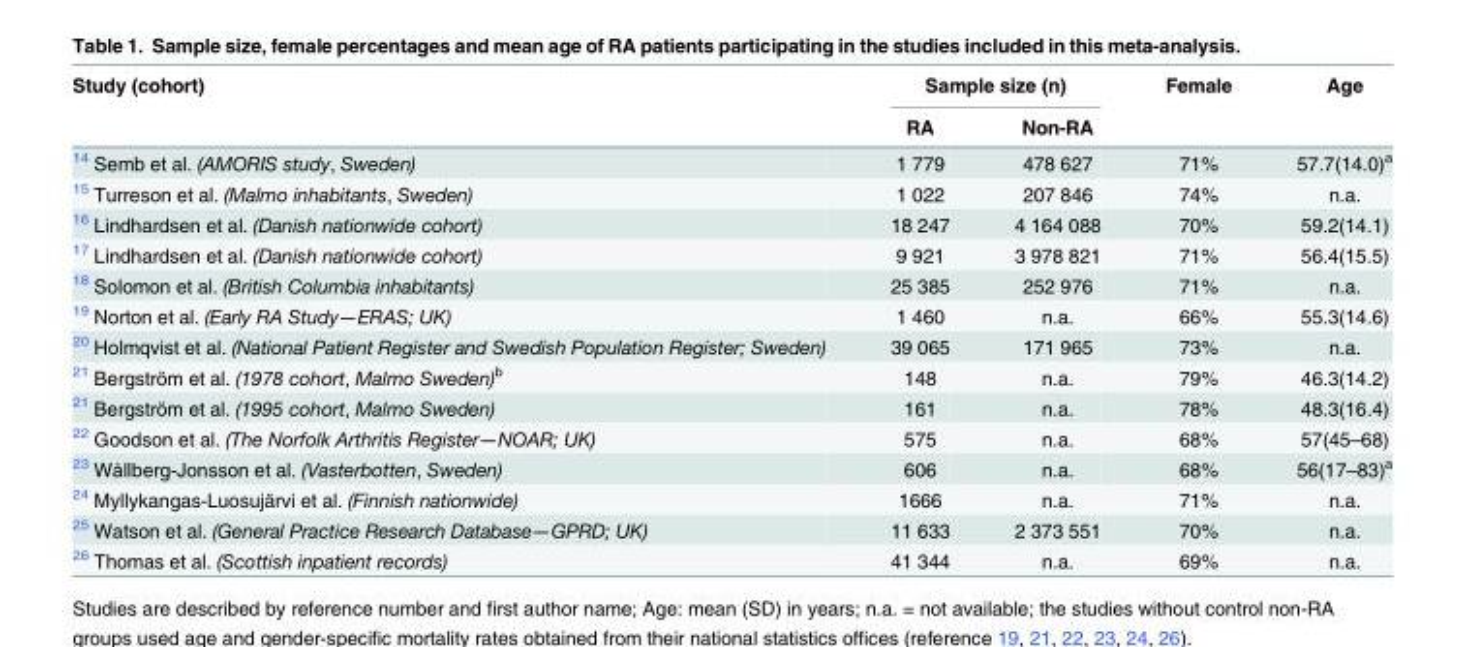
<table><thead><tr><td rowspan="2">Study (cohort)</td><td colspan="2">Sample size (n)</td><td rowspan="2">Female</td><td rowspan="2">Age</td></tr><tr><td>RA</td><td>Non-RA</td></tr></thead><tbody><tr><td><sup>14</sup> Semb et al. (AMORIS study, Sweden)</td><td>1 779</td><td>478 627</td><td>71%</td><td>57.7(14.0)<sup>a</sup></td></tr><tr><td><sup>15</sup> Turreson et al. (Malmo inhabitants, Sweden)</td><td>1 022</td><td>207 846</td><td>74%</td><td>n.a.</td></tr><tr><td><sup>16</sup> Lindhardsen et al. (Danish nationwide cohort)</td><td>18 247</td><td>4 164 088</td><td>70%</td><td>59.2(14.1)</td></tr><tr><td><sup>17</sup> Lindhardsen et al. (Danish nationwide cohort)</td><td>9 921</td><td>3 978 821</td><td>71%</td><td>56.4(15.5)</td></tr><tr><td><sup>18</sup> Solomon et al. (British Columbia inhabitants)</td><td>25 385</td><td>252 976</td><td>71%</td><td>n.a.</td></tr><tr><td><sup>19</sup> Norton et al. (Early RA Study—ERAS; UK)</td><td>1 460</td><td>n.a.</td><td>66%</td><td>55.3(14.6)</td></tr><tr><td><sup>20</sup> Holmqvist et al. (National Patient Register and Swedish Population Register; Sweden)</td><td>39 065</td><td>171 965</td><td>73%</td><td>n.a.</td></tr><tr><td><sup>21</sup> Bergström et al. (1978 cohort, Malmo Sweden)<sup>b</sup></td><td>148</td><td>n.a.</td><td>79%</td><td>46.3(14.2)</td></tr><tr><td><sup>21</sup> Bergström et al. (1995 cohort, Malmo Sweden)</td><td>161</td><td>n.a.</td><td>78%</td><td>48.3(16.4)</td></tr><tr><td><sup>22</sup> Goodson et al. (The Norfolk Arthritis Register—NOAR; UK)</td><td>575</td><td>n.a.</td><td>68%</td><td>57(45–68)</td></tr><tr><td><sup>23</sup> Wållberg-Jonsson et al. (Vasterbotten, Sweden)</td><td>606</td><td>n.a.</td><td>68%</td><td>56(17–83)<sup>a</sup></td></tr><tr><td><sup>24</sup> Myllykangas-Luosujärvi et al. (Finnish nationwide)</td><td>1666</td><td>n.a.</td><td>71%</td><td>n.a.</td></tr><tr><td><sup>25</sup> Watson et al. (General Practice Research Database—GPRD; UK)</td><td>11 633</td><td>2 373 551</td><td>70%</td><td>n.a.</td></tr><tr><td><sup>26</sup> Thomas et al. (Scottish inpatient records)</td><td>41 344</td><td>n.a.</td><td>69%</td><td>n.a.</td></tr></tbody></table>